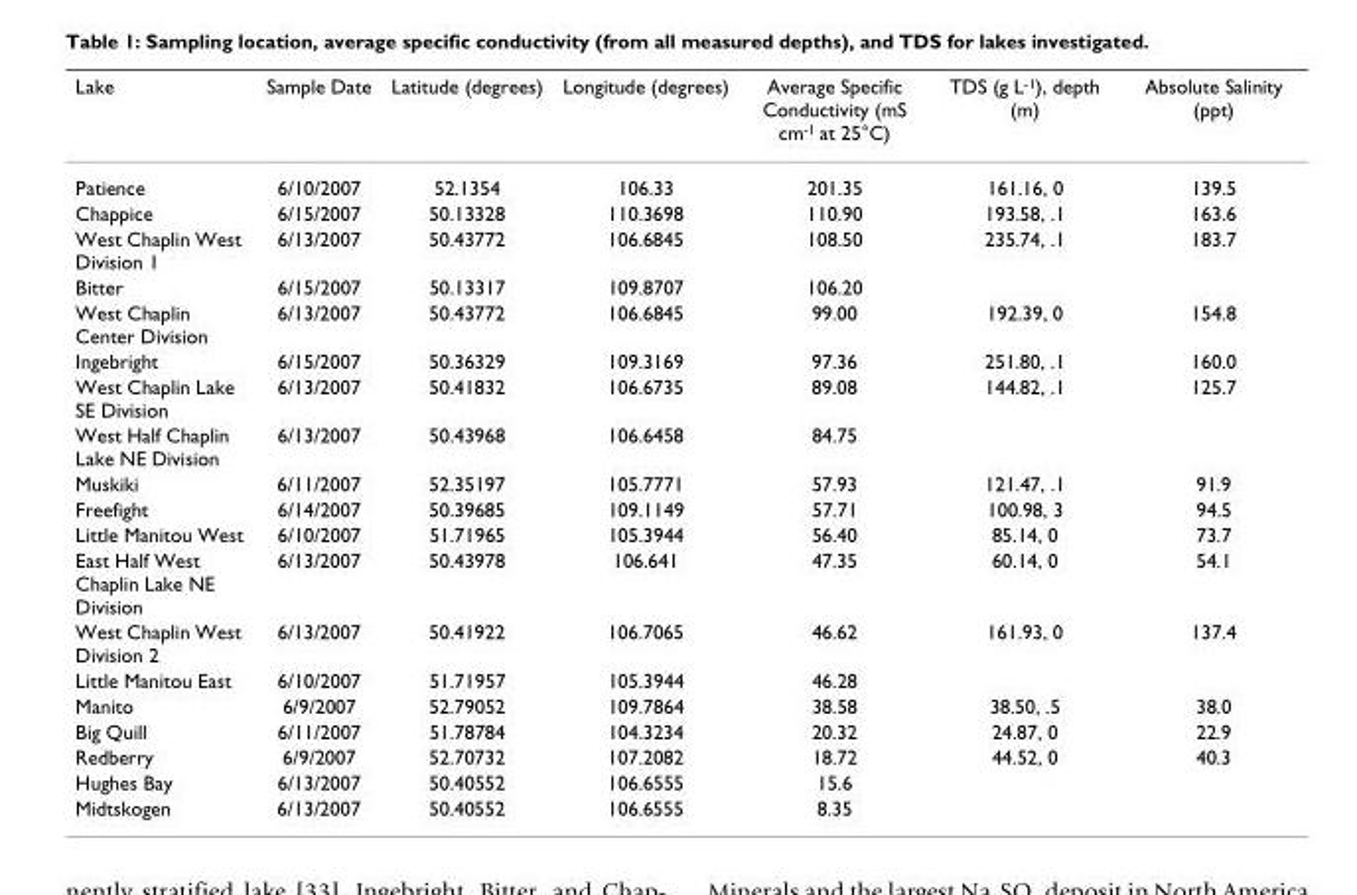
<table><thead><tr><td>Lake</td><td>Sample Date</td><td>Latitude (degrees)</td><td>Longitude (degrees)</td><td>Average Specific Conductivity (mS cm<sup>-1</sup> at 25°C)</td><td>TDS (g L<sup>-1</sup>), depth (m)</td><td>Absolute Salinity (ppt)</td></tr></thead><tbody><tr><td>Patience</td><td>6/10/2007</td><td>52.1354</td><td>106.33</td><td>201.35</td><td>161.16, 0</td><td>139.5</td></tr><tr><td>Chappice</td><td>6/15/2007</td><td>50.13328</td><td>110.3698</td><td>110.90</td><td>193.58, .1</td><td>163.6</td></tr><tr><td>West Chaplin West Division 1</td><td>6/13/2007</td><td>50.43772</td><td>106.6845</td><td>108.50</td><td>235.74, .1</td><td>183.7</td></tr><tr><td>Bitter</td><td>6/15/2007</td><td>50.13317</td><td>109.8707</td><td>106.20</td><td></td><td></td></tr><tr><td>West Chaplin Center Division</td><td>6/13/2007</td><td>50.43772</td><td>106.6845</td><td>99.00</td><td>192.39, 0</td><td>154.8</td></tr><tr><td>Ingebright</td><td>6/15/2007</td><td>50.36329</td><td>109.3169</td><td>97.36</td><td>251.80, .1</td><td>160.0</td></tr><tr><td>West Chaplin Lake SE Division</td><td>6/13/2007</td><td>50.41832</td><td>106.6735</td><td>89.08</td><td>144.82, .1</td><td>125.7</td></tr><tr><td>West Half Chaplin Lake NE Division</td><td>6/13/2007</td><td>50.43968</td><td>106.6458</td><td>84.75</td><td></td><td></td></tr><tr><td>Muskiki</td><td>6/11/2007</td><td>52.35197</td><td>105.7771</td><td>57.93</td><td>121.47, .1</td><td>91.9</td></tr><tr><td>Freefight</td><td>6/14/2007</td><td>50.39685</td><td>109.1149</td><td>57.71</td><td>100.98, 3</td><td>94.5</td></tr><tr><td>Little Manitou West</td><td>6/10/2007</td><td>51.71965</td><td>105.3944</td><td>56.40</td><td>85.14, 0</td><td>73.7</td></tr><tr><td>East Half West Chaplin Lake NE Division</td><td>6/13/2007</td><td>50.43978</td><td>106.641</td><td>47.35</td><td>60.14, 0</td><td>54.1</td></tr><tr><td>West Chaplin West Division 2</td><td>6/13/2007</td><td>50.41922</td><td>106.7065</td><td>46.62</td><td>161.93, 0</td><td>137.4</td></tr><tr><td>Little Manitou East</td><td>6/10/2007</td><td>51.71957</td><td>105.3944</td><td>46.28</td><td></td><td></td></tr><tr><td>Manito</td><td>6/9/2007</td><td>52.79052</td><td>109.7864</td><td>38.58</td><td>38.50, .5</td><td>38.0</td></tr><tr><td>Big Quill</td><td>6/11/2007</td><td>51.78784</td><td>104.3234</td><td>20.32</td><td>24.87, 0</td><td>22.9</td></tr><tr><td>Redberry</td><td>6/9/2007</td><td>52.70732</td><td>107.2082</td><td>18.72</td><td>44.52, 0</td><td>40.3</td></tr><tr><td>Hughes Bay</td><td>6/13/2007</td><td>50.40552</td><td>106.6555</td><td>15.6</td><td></td><td></td></tr><tr><td>Midtskogen</td><td>6/13/2007</td><td>50.40552</td><td>106.6555</td><td>8.35</td><td></td><td></td></tr></tbody></table>